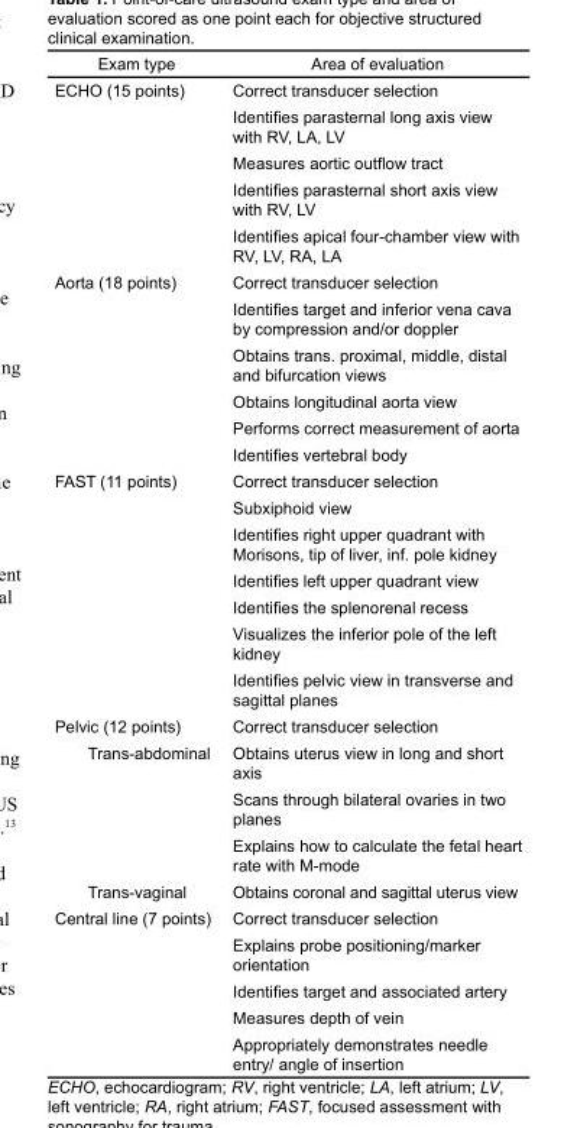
<table><thead><tr><td>Exam type</td><td>Area of evaluation</td></tr></thead><tbody><tr><td rowspan="5">ECHO (15 points)</td><td>Correct transducer selection</td></tr><tr><td>Identifies parasternal long axis view with RV, LA, LV</td></tr><tr><td>Measures aortic outflow tract</td></tr><tr><td>Identifies parasternal short axis view with RV, LV</td></tr><tr><td>Identifies apical four-chamber view with RV, LV, RA, LA</td></tr><tr><td rowspan="6">Aorta (18 points)</td><td>Correct transducer selection</td></tr><tr><td>Identifies target and inferior vena cava by compression and/or doppler</td></tr><tr><td>Obtains trans. proximal, middle, distal and bifurcation views</td></tr><tr><td>Obtains longitudinal aorta view</td></tr><tr><td>Performs correct measurement of aorta</td></tr><tr><td>Identifies vertebral body</td></tr><tr><td rowspan="7">FAST (11 points)</td><td>Correct transducer selection</td></tr><tr><td>Subxiphoid view</td></tr><tr><td>Identifies right upper quadrant with Morisons, tip of liver, inf. pole kidney</td></tr><tr><td>Identifies left upper quadrant view</td></tr><tr><td>Identifies the splenorenal recess</td></tr><tr><td>Visualizes the inferior pole of the left kidney</td></tr><tr><td>Identifies pelvic view in transverse and sagittal planes</td></tr><tr><td>Pelvic (12 points)</td><td>Correct transducer selection</td></tr><tr><td rowspan="3">Trans-abdominal</td><td>Obtains uterus view in long and short axis</td></tr><tr><td>Scans through bilateral ovaries in two planes</td></tr><tr><td>Explains how to calculate the fetal heart rate with M-mode</td></tr><tr><td>Trans-vaginal</td><td>Obtains coronal and sagittal uterus view</td></tr><tr><td rowspan="5">Central line (7 points)</td><td>Correct transducer selection</td></tr><tr><td>Explains probe positioning/marker orientation</td></tr><tr><td>Identifies target and associated artery</td></tr><tr><td>Measures depth of vein</td></tr><tr><td>Appropriately demonstrates needle entry/ angle of insertion</td></tr></tbody></table>